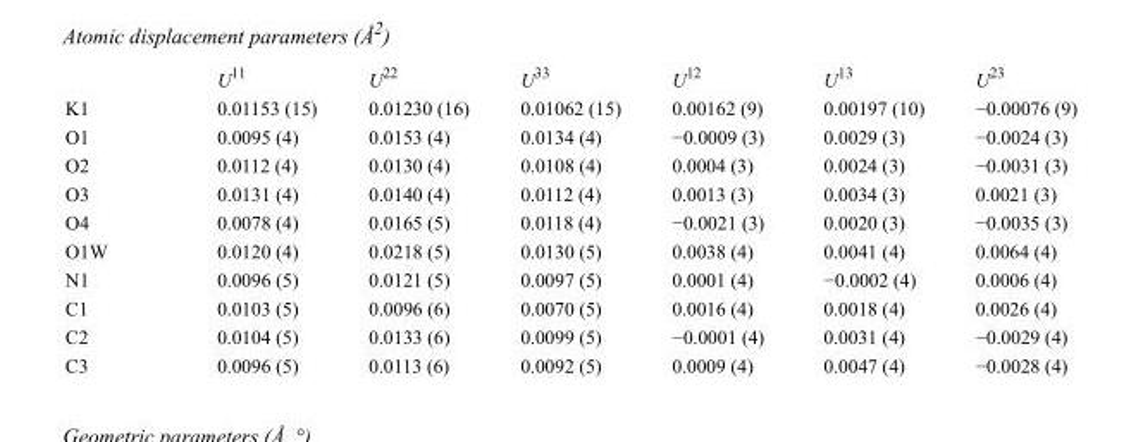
<table><thead><tr><td></td><td>U<sup>11</sup></td><td>U<sup>22</sup></td><td>U<sup>33</sup></td><td>U<sup>12</sup></td><td>U<sup>13</sup></td><td>U<sup>23</sup></td></tr></thead><tbody><tr><td>K1</td><td>0.01153 (15)</td><td>0.01230 (16)</td><td>0.01062 (15)</td><td>0.00162 (9)</td><td>0.00197 (10)</td><td>−0.00076 (9)</td></tr><tr><td>O1</td><td>0.0095 (4)</td><td>0.0153 (4)</td><td>0.0134 (4)</td><td>−0.0009 (3)</td><td>0.0029 (3)</td><td>−0.0024 (3)</td></tr><tr><td>O2</td><td>0.0112 (4)</td><td>0.0130 (4)</td><td>0.0108 (4)</td><td>0.0004 (3)</td><td>0.0024 (3)</td><td>−0.0031 (3)</td></tr><tr><td>O3</td><td>0.0131 (4)</td><td>0.0140 (4)</td><td>0.0112 (4)</td><td>0.0013 (3)</td><td>0.0034 (3)</td><td>0.0021 (3)</td></tr><tr><td>O4</td><td>0.0078 (4)</td><td>0.0165 (5)</td><td>0.0118 (4)</td><td>−0.0021 (3)</td><td>0.0020 (3)</td><td>−0.0035 (3)</td></tr><tr><td>O1W</td><td>0.0120 (4)</td><td>0.0218 (5)</td><td>0.0130 (5)</td><td>0.0038 (4)</td><td>0.0041 (4)</td><td>0.0064 (4)</td></tr><tr><td>N1</td><td>0.0096 (5)</td><td>0.0121 (5)</td><td>0.0097 (5)</td><td>0.0001 (4)</td><td>−0.0002 (4)</td><td>0.0006 (4)</td></tr><tr><td>C1</td><td>0.0103 (5)</td><td>0.0096 (6)</td><td>0.0070 (5)</td><td>0.0016 (4)</td><td>0.0018 (4)</td><td>0.0026 (4)</td></tr><tr><td>C2</td><td>0.0104 (5)</td><td>0.0133 (6)</td><td>0.0099 (5)</td><td>−0.0001 (4)</td><td>0.0031 (4)</td><td>−0.0029 (4)</td></tr><tr><td>C3</td><td>0.0096 (5)</td><td>0.0113 (6)</td><td>0.0092 (5)</td><td>0.0009 (4)</td><td>0.0047 (4)</td><td>−0.0028 (4)</td></tr></tbody></table>